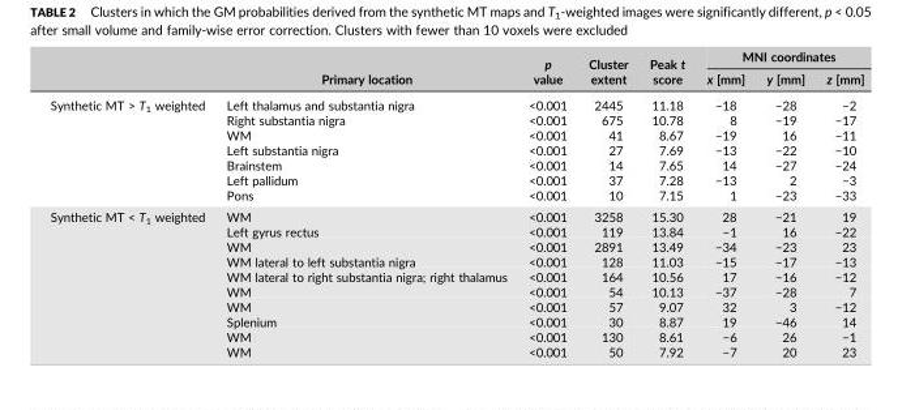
<table><thead><tr><td rowspan="2"></td><td rowspan="2">Primary location</td><td rowspan="2">p value</td><td rowspan="2">Cluster extent</td><td rowspan="2">Peak t score</td><td colspan="3">MNI coordinates</td></tr><tr><td>x [mm]</td><td>y [mm]</td><td>z [mm]</td></tr></thead><tbody><tr><td rowspan="7">Synthetic MT &gt; T<sub>1</sub> weighted</td><td>Left thalamus and substantia nigra</td><td>&lt;0.001</td><td>2445</td><td>11.18</td><td>−18</td><td>−28</td><td>−2</td></tr><tr><td>Right substantia nigra</td><td>&lt;0.001</td><td>675</td><td>10.78</td><td>8</td><td>−19</td><td>−17</td></tr><tr><td>WM</td><td>&lt;0.001</td><td>41</td><td>8.67</td><td>−19</td><td>16</td><td>−11</td></tr><tr><td>Left substantia nigra</td><td>&lt;0.001</td><td>27</td><td>7.69</td><td>−13</td><td>−22</td><td>−10</td></tr><tr><td>Brainstem</td><td>&lt;0.001</td><td>14</td><td>7.65</td><td>14</td><td>−27</td><td>−24</td></tr><tr><td>Left pallidum</td><td>&lt;0.001</td><td>37</td><td>7.28</td><td>−13</td><td>2</td><td>−3</td></tr><tr><td>Pons</td><td>&lt;0.001</td><td>10</td><td>7.15</td><td>1</td><td>−23</td><td>−33</td></tr><tr><td rowspan="10">Synthetic MT &lt; T<sub>1</sub> weighted</td><td>WM</td><td>&lt;0.001</td><td>3258</td><td>15.30</td><td>28</td><td>−21</td><td>19</td></tr><tr><td>Left gyrus rectus</td><td>&lt;0.001</td><td>119</td><td>13.84</td><td>−1</td><td>16</td><td>−22</td></tr><tr><td>WM</td><td>&lt;0.001</td><td>2891</td><td>13.49</td><td>−34</td><td>−23</td><td>23</td></tr><tr><td>WM lateral to left substantia nigra</td><td>&lt;0.001</td><td>128</td><td>11.03</td><td>−15</td><td>−17</td><td>−13</td></tr><tr><td>WM lateral to right substantia nigra; right thalamus</td><td>&lt;0.001</td><td>164</td><td>10.56</td><td>17</td><td>−16</td><td>−12</td></tr><tr><td>WM</td><td>&lt;0.001</td><td>54</td><td>10.13</td><td>−37</td><td>−28</td><td>7</td></tr><tr><td>WM</td><td>&lt;0.001</td><td>57</td><td>9.07</td><td>32</td><td>3</td><td>−12</td></tr><tr><td>Splenium</td><td>&lt;0.001</td><td>30</td><td>8.87</td><td>19</td><td>−46</td><td>14</td></tr><tr><td>WM</td><td>&lt;0.001</td><td>130</td><td>8.61</td><td>−6</td><td>26</td><td>−1</td></tr><tr><td>WM</td><td>&lt;0.001</td><td>50</td><td>7.92</td><td>−7</td><td>20</td><td>23</td></tr></tbody></table>